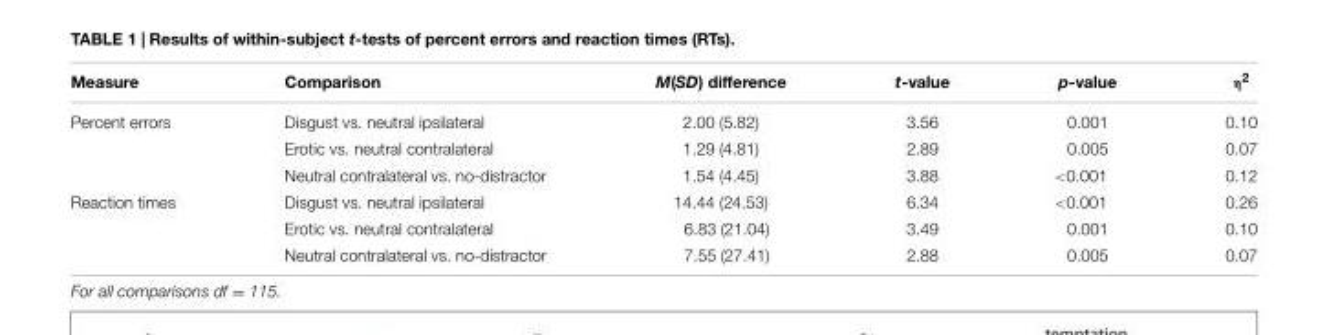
<table><thead><tr><td>Measure</td><td>Comparison</td><td>M(SD) difference</td><td>t-value</td><td>p-value</td><td>η<sup>2</sup></td></tr></thead><tbody><tr><td rowspan="3">Percent errors</td><td>Disgust vs. neutral ipsilateral</td><td>2.00 (5.82)</td><td>3.56</td><td>0.001</td><td>0.10</td></tr><tr><td>Erotic vs. neutral contralateral</td><td>1.29 (4.81)</td><td>2.89</td><td>0.005</td><td>0.07</td></tr><tr><td>Neutral contralateral vs. no-distractor</td><td>1.54 (4.45)</td><td>3.88</td><td>&lt;0.001</td><td>0.12</td></tr><tr><td rowspan="3">Reaction times</td><td>Disgust vs. neutral ipsilateral</td><td>14.44 (24.53)</td><td>6.34</td><td>&lt;0.001</td><td>0.26</td></tr><tr><td>Erotic vs. neutral contralateral</td><td>6.83 (21.04)</td><td>3.49</td><td>0.001</td><td>0.10</td></tr><tr><td>Neutral contralateral vs. no-distractor</td><td>7.55 (27.41)</td><td>2.88</td><td>0.005</td><td>0.07</td></tr></tbody></table>